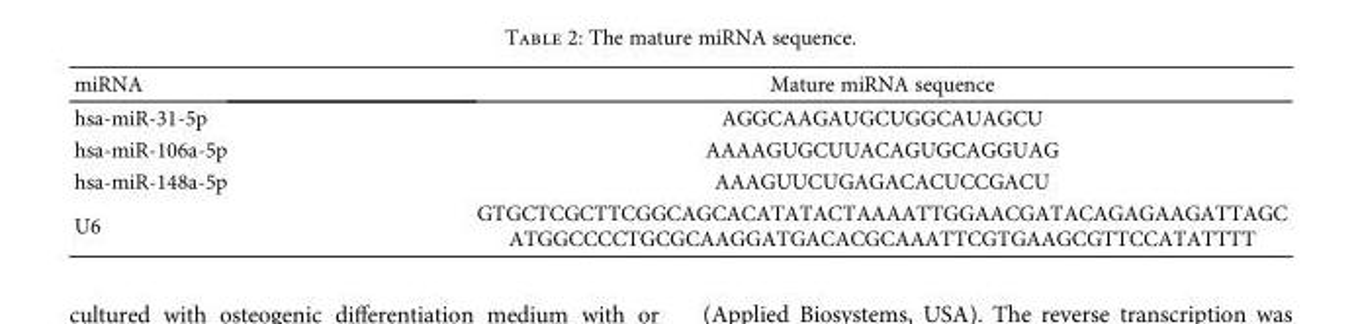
<table><thead><tr><td>miRNA</td><td>Mature miRNA sequence</td></tr></thead><tbody><tr><td>hsa-miR-31-5p</td><td>AGGCAAGAUGCUGGCAUAGCU</td></tr><tr><td>hsa-miR-106a-5p</td><td>AAAAGUGCUUACAGUGCAGGUAG</td></tr><tr><td>hsa-miR-148a-5p</td><td>AAAGUUCUGAGACACUCCGACU</td></tr><tr><td>U6</td><td>GTGCTCGCTTCGGCAGCACATATACTAAAATTGGAACGATACAGAGAAGATTAGC ATGGCCCCTGCGCAAGGATGACACGCAAATTCGTGAAGCGTTCCATATTTT</td></tr></tbody></table>